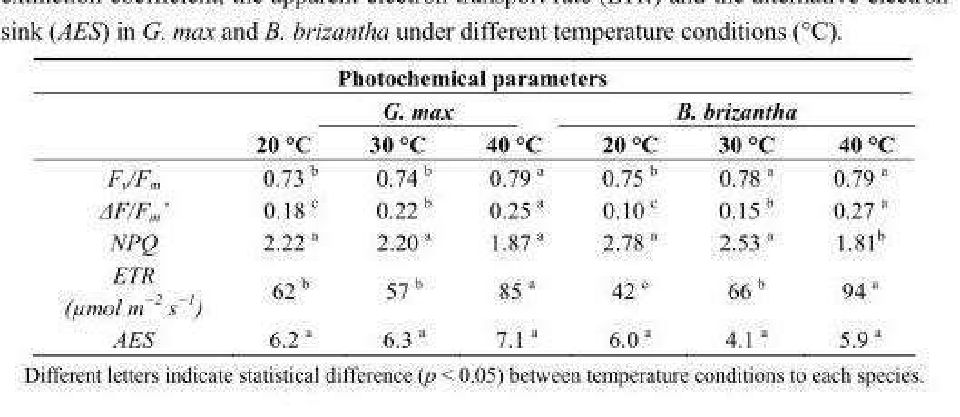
<table><thead><tr><td colspan="7">Photochemical parameters</td></tr><tr><td rowspan="2"></td><td colspan="3">G. max</td><td colspan="3">B. brizantha</td></tr><tr><td>20 °C</td><td>30 °C</td><td>40 °C</td><td>20 °C</td><td>30 °C</td><td>40 °C</td></tr></thead><tbody><tr><td>F<sub>v</sub>/F<sub>m</sub></td><td>0.73 <sup>b</sup></td><td>0.74 <sup>b</sup></td><td>0.79 <sup>a</sup></td><td>0.75 <sup>b</sup></td><td>0.78 <sup>a</sup></td><td>0.79 <sup>a</sup></td></tr><tr><td>ΔF/F<sub>m</sub>’</td><td>0.18 <sup>c</sup></td><td>0.22 <sup>b</sup></td><td>0.25 <sup>a</sup></td><td>0.10 <sup>c</sup></td><td>0.15 <sup>b</sup></td><td>0.27 <sup>a</sup></td></tr><tr><td>NPQ</td><td>2.22 <sup>a</sup></td><td>2.20 <sup>a</sup></td><td>1.87 <sup>a</sup></td><td>2.78 <sup>a</sup></td><td>2.53 <sup>a</sup></td><td>1.81<sup>b</sup></td></tr><tr><td>ETR (µmol m<sup>−2</sup> s<sup>−1</sup>)</td><td>62 <sup>b</sup></td><td>57 <sup>b</sup></td><td>85 <sup>a</sup></td><td>42 <sup>c</sup></td><td>66 <sup>b</sup></td><td>94 <sup>a</sup></td></tr><tr><td>AES</td><td>6.2 <sup>a</sup></td><td>6.3 <sup>a</sup></td><td>7.1 <sup>a</sup></td><td>6.0 <sup>a</sup></td><td>4.1 <sup>a</sup></td><td>5.9 <sup>a</sup></td></tr></tbody></table>